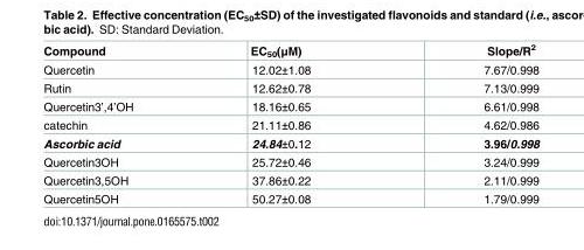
<table><thead><tr><td>Compound</td><td>EC<sub>50</sub>(μM)</td><td>Slope/R<sup>2</sup></td></tr></thead><tbody><tr><td>Quercetin</td><td>12.02±1.08</td><td>7.67/0.998</td></tr><tr><td>Rutin</td><td>12.62±0.78</td><td>7.13/0.999</td></tr><tr><td>Quercetin3’,4’OH</td><td>18.16±0.65</td><td>6.61/0.998</td></tr><tr><td>catechin</td><td>21.11±0.86</td><td>4.62/0.986</td></tr><tr><td>Ascorbic acid</td><td>24.84±0.12</td><td>3.96/0.998</td></tr><tr><td>Quercetin3OH</td><td>25.72±0.46</td><td>3.24/0.999</td></tr><tr><td>Quercetin3,5OH</td><td>37.86±0.22</td><td>2.11/0.999</td></tr><tr><td>Quercetin5OH</td><td>50.27±0.08</td><td>1.79/0.999</td></tr></tbody></table>